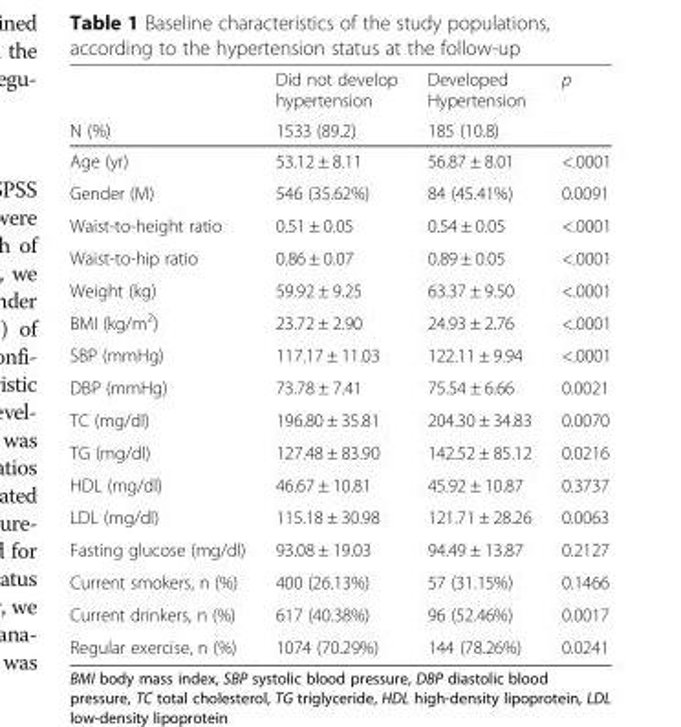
<table><thead><tr><td rowspan="2">N (%)</td><td rowspan="2">Did not develop hypertension 1533 (89.2)</td><td rowspan="2">Developed Hypertension 185 (10.8)</td><td rowspan="2">p</td></tr><tr></tr></thead><tbody><tr><td>Age (yr)</td><td>53.12 ± 8.11</td><td>56.87 ± 8.01</td><td>&lt;.0001</td></tr><tr><td>Gender (M)</td><td>546 (35.62%)</td><td>84 (45.41%)</td><td>0.0091</td></tr><tr><td>Waist-to-height ratio</td><td>0.51 ± 0.05</td><td>0.54 ± 0.05</td><td>&lt;.0001</td></tr><tr><td>Waist-to-hip ratio</td><td>0.86 ± 0.07</td><td>0.89 ± 0.05</td><td>&lt;.0001</td></tr><tr><td>Weight (kg)</td><td>59.92 ± 9.25</td><td>63.37 ± 9.50</td><td>&lt;.0001</td></tr><tr><td>BMI (kg/m<sup>2</sup>)</td><td>23.72 ± 2.90</td><td>24.93 ± 2.76</td><td>&lt;.0001</td></tr><tr><td>SBP (mmHg)</td><td>117.17 ± 11.03</td><td>122.11 ± 9.94</td><td>&lt;.0001</td></tr><tr><td>DBP (mmHg)</td><td>73.78 ± 7.41</td><td>75.54 ± 6.66</td><td>0.0021</td></tr><tr><td>TC (mg/dl)</td><td>196.80 ± 35.81</td><td>204.30 ± 34.83</td><td>0.0070</td></tr><tr><td>TG (mg/dl)</td><td>127.48 ± 83.90</td><td>142.52 ± 85.12</td><td>0.0216</td></tr><tr><td>HDL (mg/dl)</td><td>46.67 ± 10.81</td><td>45.92 ± 10.87</td><td>0.3737</td></tr><tr><td>LDL (mg/dl)</td><td>115.18 ± 30.98</td><td>121.71 ± 28.26</td><td>0.0063</td></tr><tr><td>Fasting glucose (mg/dl)</td><td>93.08 ± 19.03</td><td>94.49 ± 13.87</td><td>0.2127</td></tr><tr><td>Current smokers, n (%)</td><td>400 (26.13%)</td><td>57 (31.15%)</td><td>0.1466</td></tr><tr><td>Current drinkers, n (%)</td><td>617 (40.38%)</td><td>96 (52.46%)</td><td>0.0017</td></tr><tr><td>Regular exercise, n (%)</td><td>1074 (70.29%)</td><td>144 (78.26%)</td><td>0.0241</td></tr></tbody></table>